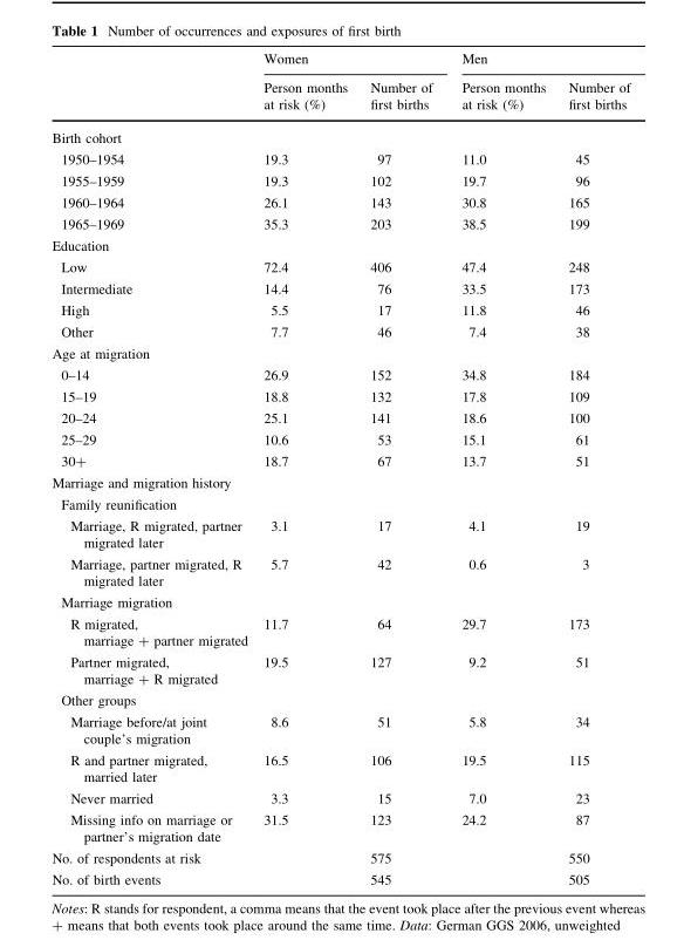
<table><thead><tr><td rowspan="2"></td><td colspan="2">Women</td><td colspan="2">Men</td></tr><tr><td>Person months at risk (%)</td><td>Number of first births</td><td>Person months at risk (%)</td><td>Number of first births</td></tr></thead><tbody><tr><td colspan="5">Birth cohort</td></tr><tr><td>1950–1954</td><td>19.3</td><td>97</td><td>11.0</td><td>45</td></tr><tr><td>1955–1959</td><td>19.3</td><td>102</td><td>19.7</td><td>96</td></tr><tr><td>1960–1964</td><td>26.1</td><td>143</td><td>30.8</td><td>165</td></tr><tr><td>1965–1969</td><td>35.3</td><td>203</td><td>38.5</td><td>199</td></tr><tr><td colspan="5">Education</td></tr><tr><td>Low</td><td>72.4</td><td>406</td><td>47.4</td><td>248</td></tr><tr><td>Intermediate</td><td>14.4</td><td>76</td><td>33.5</td><td>173</td></tr><tr><td>High</td><td>5.5</td><td>17</td><td>11.8</td><td>46</td></tr><tr><td>Other</td><td>7.7</td><td>46</td><td>7.4</td><td>38</td></tr><tr><td colspan="5">Age at migration</td></tr><tr><td>0–14</td><td>26.9</td><td>152</td><td>34.8</td><td>184</td></tr><tr><td>15–19</td><td>18.8</td><td>132</td><td>17.8</td><td>109</td></tr><tr><td>20–24</td><td>25.1</td><td>141</td><td>18.6</td><td>100</td></tr><tr><td>25–29</td><td>10.6</td><td>53</td><td>15.1</td><td>61</td></tr><tr><td>30+</td><td>18.7</td><td>67</td><td>13.7</td><td>51</td></tr><tr><td colspan="5">Marriage and migration history</td></tr><tr><td colspan="5">Family reunification</td></tr><tr><td>Marriage, R migrated, partner migrated later</td><td>3.1</td><td>17</td><td>4.1</td><td>19</td></tr><tr><td>Marriage, partner migrated, R migrated later</td><td>5.7</td><td>42</td><td>0.6</td><td>3</td></tr><tr><td colspan="5">Marriage migration</td></tr><tr><td>R migrated, marriage + partner migrated</td><td>11.7</td><td>64</td><td>29.7</td><td>173</td></tr><tr><td>Partner migrated, marriage + R migrated</td><td>19.5</td><td>127</td><td>9.2</td><td>51</td></tr><tr><td colspan="5">Other groups</td></tr><tr><td>Marriage before/at joint couple’s migration</td><td>8.6</td><td>51</td><td>5.8</td><td>34</td></tr><tr><td>R and partner migrated, married later</td><td>16.5</td><td>106</td><td>19.5</td><td>115</td></tr><tr><td>Never married</td><td>3.3</td><td>15</td><td>7.0</td><td>23</td></tr><tr><td>Missing info on marriage or partner’s migration date</td><td>31.5</td><td>123</td><td>24.2</td><td>87</td></tr><tr><td>No. of respondents at risk</td><td></td><td>575</td><td></td><td>550</td></tr><tr><td>No. of birth events</td><td></td><td>545</td><td></td><td>505</td></tr></tbody></table>